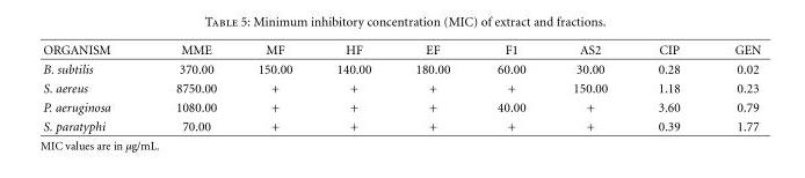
<table><thead><tr><td>ORGANISM</td><td>MME</td><td>MF</td><td>HF</td><td>EF</td><td>F1</td><td>AS2</td><td>CIP</td><td>GEN</td></tr></thead><tbody><tr><td>B. subtilis</td><td>370.00</td><td>150.00</td><td>140.00</td><td>180.00</td><td>60.00</td><td>30.00</td><td>0.28</td><td>0.02</td></tr><tr><td>S. aereus</td><td>8750.00</td><td>+</td><td>+</td><td>+</td><td>+</td><td>150.00</td><td>1.18</td><td>0.23</td></tr><tr><td>P. aeruginosa</td><td>1080.00</td><td>+</td><td>+</td><td>+</td><td>40.00</td><td>+</td><td>3.60</td><td>0.79</td></tr><tr><td>S. paratyphi</td><td>70.00</td><td>+</td><td>+</td><td>+</td><td>+</td><td>+</td><td>0.39</td><td>1.77</td></tr></tbody></table>